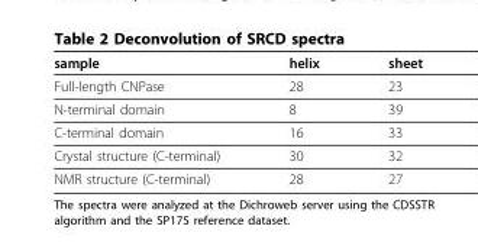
<table><thead><tr><td>sample</td><td>helix</td><td>sheet</td></tr></thead><tbody><tr><td>Full-length CNPase</td><td>28</td><td>23</td></tr><tr><td>N-terminal domain</td><td>8</td><td>39</td></tr><tr><td>C-terminal domain</td><td>16</td><td>33</td></tr><tr><td>Crystal structure (C-terminal)</td><td>30</td><td>32</td></tr><tr><td>NMR structure (C-terminal)</td><td>28</td><td>27</td></tr></tbody></table>